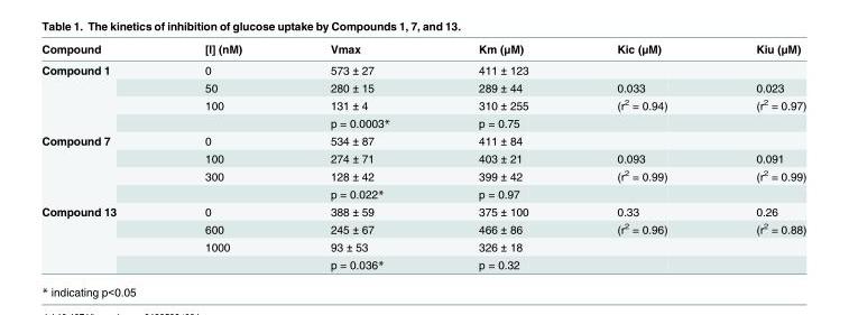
<table><thead><tr><td>Compound</td><td>[I] (nM)</td><td>Vmax</td><td>Km (μM)</td><td>Kic (μM)</td><td>Kiu (μM)</td></tr></thead><tbody><tr><td rowspan="4">Compound 1</td><td>0</td><td>573 ± 27</td><td>411 ± 123</td><td></td><td></td></tr><tr><td>50</td><td>280 ± 15</td><td>289 ± 44</td><td>0.033</td><td>0.023</td></tr><tr><td>100</td><td>131 ± 4</td><td>310 ± 255</td><td>(r<sup>2</sup> = 0.94)</td><td>(r<sup>2</sup> = 0.97)</td></tr><tr><td></td><td>p = 0.0003*</td><td>p = 0.75</td><td></td><td></td></tr><tr><td rowspan="4">Compound 7</td><td>0</td><td>534 ± 87</td><td>411 ± 84</td><td></td><td></td></tr><tr><td>100</td><td>274 ± 71</td><td>403 ± 21</td><td>0.093</td><td>0.091</td></tr><tr><td>300</td><td>128 ± 42</td><td>399 ± 42</td><td>(r<sup>2</sup> = 0.99)</td><td>(r<sup>2</sup> = 0.99)</td></tr><tr><td></td><td>p = 0.022*</td><td>p = 0.97</td><td></td><td></td></tr><tr><td rowspan="4">Compound 13</td><td>0</td><td>388 ± 59</td><td>375 ± 100</td><td>0.33</td><td>0.26</td></tr><tr><td>600</td><td>245 ± 67</td><td>466 ± 86</td><td>(r<sup>2</sup> = 0.96)</td><td>(r<sup>2</sup> = 0.88)</td></tr><tr><td>1000</td><td>93 ± 53</td><td>326 ± 18</td><td></td><td></td></tr><tr><td></td><td>p = 0.036*</td><td>p = 0.32</td><td></td><td></td></tr></tbody></table>